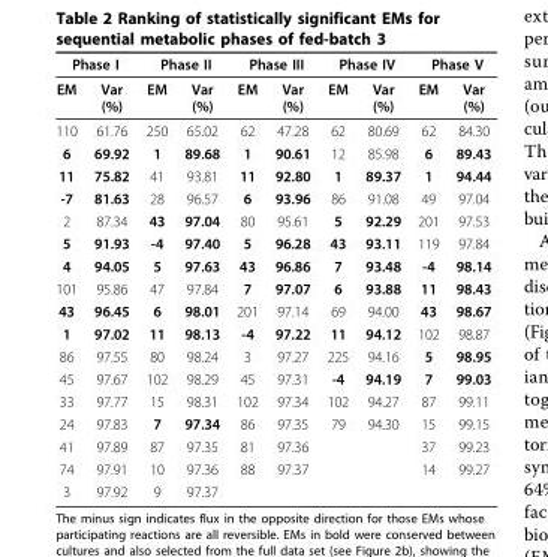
<table><thead><tr><td colspan="2">Phase I</td><td colspan="2">Phase II</td><td colspan="2">Phase III</td><td colspan="2">Phase IV</td><td colspan="2">Phase V</td></tr><tr><td>EM</td><td>Var (%)</td><td>EM</td><td>Var (%)</td><td>EM</td><td>Var (%)</td><td>EM</td><td>Var (%)</td><td>EM</td><td>Var (%)</td></tr></thead><tbody><tr><td>110</td><td>61.76</td><td>250</td><td>65.02</td><td>62</td><td>47.28</td><td>62</td><td>80.69</td><td>62</td><td>84.30</td></tr><tr><td>6</td><td>69.92</td><td>1</td><td>89.68</td><td>1</td><td>90.61</td><td>12</td><td>85.98</td><td>6</td><td>89.43</td></tr><tr><td>11</td><td>75.82</td><td>41</td><td>93.81</td><td>11</td><td>92.80</td><td>1</td><td>89.37</td><td>1</td><td>94.44</td></tr><tr><td>-7</td><td>81.63</td><td>28</td><td>96.57</td><td>6</td><td>93.96</td><td>86</td><td>91.08</td><td>49</td><td>97.04</td></tr><tr><td>2</td><td>87.34</td><td>43</td><td>97.04</td><td>80</td><td>95.61</td><td>5</td><td>92.29</td><td>201</td><td>97.53</td></tr><tr><td>5</td><td>91.93</td><td>-4</td><td>97.40</td><td>5</td><td>96.28</td><td>43</td><td>93.11</td><td>119</td><td>97.84</td></tr><tr><td>4</td><td>94.05</td><td>5</td><td>97.63</td><td>43</td><td>96.86</td><td>7</td><td>93.48</td><td>-4</td><td>98.14</td></tr><tr><td>101</td><td>95.86</td><td>47</td><td>97.84</td><td>7</td><td>97.07</td><td>6</td><td>93.88</td><td>11</td><td>98.43</td></tr><tr><td>43</td><td>96.45</td><td>6</td><td>98.01</td><td>201</td><td>97.14</td><td>69</td><td>94.00</td><td>43</td><td>98.67</td></tr><tr><td>1</td><td>97.02</td><td>11</td><td>98.13</td><td>-4</td><td>97.22</td><td>11</td><td>94.12</td><td>102</td><td>98.87</td></tr><tr><td>86</td><td>97.55</td><td>80</td><td>98.24</td><td>3</td><td>97.27</td><td>225</td><td>94.16</td><td>5</td><td>98.95</td></tr><tr><td>45</td><td>97.67</td><td>102</td><td>98.29</td><td>45</td><td>97.31</td><td>-4</td><td>94.19</td><td>7</td><td>99.03</td></tr><tr><td>33</td><td>97.77</td><td>15</td><td>98.31</td><td>102</td><td>97.34</td><td>102</td><td>94.27</td><td>87</td><td>99.11</td></tr><tr><td>24</td><td>97.83</td><td>7</td><td>97.34</td><td>86</td><td>97.35</td><td>79</td><td>94.30</td><td>15</td><td>99.15</td></tr><tr><td>41</td><td>97.89</td><td>87</td><td>97.35</td><td>81</td><td>97.36</td><td></td><td></td><td>37</td><td>99.23</td></tr><tr><td>74</td><td>97.91</td><td>10</td><td>97.36</td><td>88</td><td>97.37</td><td></td><td></td><td>14</td><td>99.27</td></tr><tr><td>3</td><td>97.92</td><td>9</td><td>97.37</td><td></td><td></td><td></td><td></td><td></td><td></td></tr></tbody></table>